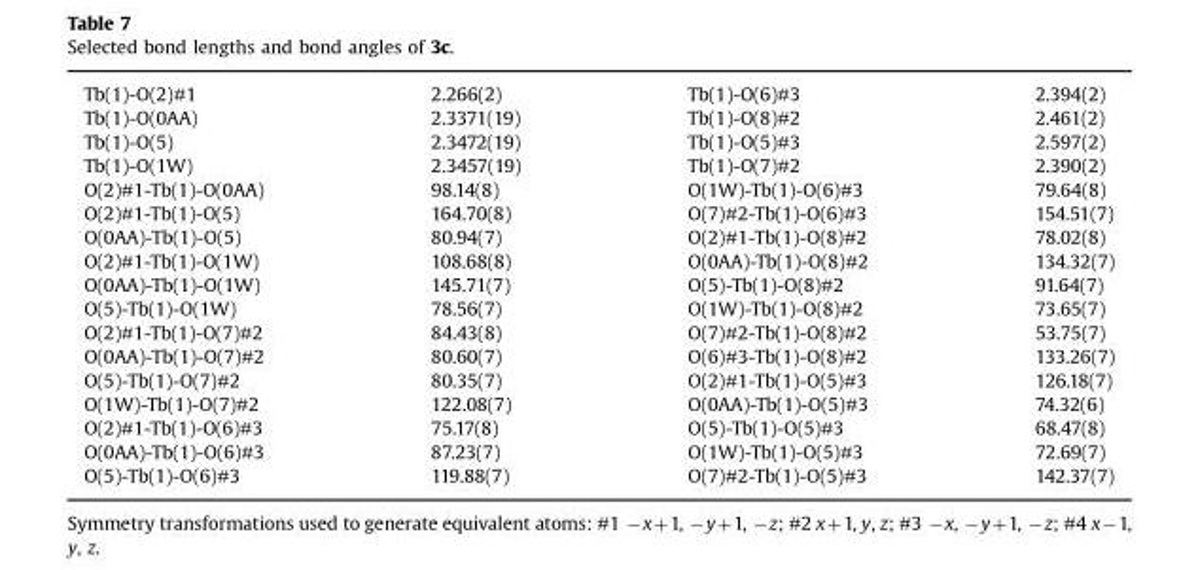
<table><tbody><tr><td>Tb(1)-O(2)#1</td><td>2.266(2)</td><td>Tb(1)-O(6)#3</td><td>2.394(2)</td></tr><tr><td>Tb(1)-O(0AA)</td><td>2.3371(19)</td><td>Tb(1)-O(8)#2</td><td>2.461(2)</td></tr><tr><td>Tb(1)-O(5)</td><td>2.3472(19)</td><td>Tb(1)-O(5)#3</td><td>2.597(2)</td></tr><tr><td>Tb(1)-O(1W)</td><td>2.3457(19)</td><td>Tb(1)-O(7)#2</td><td>2.390(2)</td></tr><tr><td>O(2)#1-Tb(1)-O(0AA)</td><td>98.14(8)</td><td>O(1W)-Tb(1)-O(6)#3</td><td>79.64(8)</td></tr><tr><td>O(2)#1-Tb(1)-O(5)</td><td>164.70(8)</td><td>O(7)#2-Tb(1)-O(6)#3</td><td>154.51(7)</td></tr><tr><td>O(0AA)-Tb(1)-O(5)</td><td>80.94(7)</td><td>O(2)#1-Tb(1)-O(8)#2</td><td>78.02(8)</td></tr><tr><td>O(2)#1-Tb(1)-O(1W)</td><td>108.68(8)</td><td>O(0AA)-Tb(1)-O(8)#2</td><td>134.32(7)</td></tr><tr><td>O(0AA)-Tb(1)-O(1W)</td><td>145.71(7)</td><td>O(5)-Tb(1)-O(8)#2</td><td>91.64(7)</td></tr><tr><td>O(5)-Tb(1)-O(1W)</td><td>78.56(7)</td><td>O(1W)-Tb(1)-O(8)#2</td><td>73.65(7)</td></tr><tr><td>O(2)#1-Tb(1)-O(7)#2</td><td>84.43(8)</td><td>O(7)#2-Tb(1)-O(8)#2</td><td>53.75(7)</td></tr><tr><td>O(0AA)-Tb(1)-O(7)#2</td><td>80.60(7)</td><td>O(6)#3-Tb(1)-O(8)#2</td><td>133.26(7)</td></tr><tr><td>O(5)-Tb(1)-O(7)#2</td><td>80.35(7)</td><td>O(2)#1-Tb(1)-O(5)#3</td><td>126.18(7)</td></tr><tr><td>O(1W)-Tb(1)-O(7)#2</td><td>122.08(7)</td><td>O(0AA)-Tb(1)-O(5)#3</td><td>74.32(6)</td></tr><tr><td>O(2)#1-Tb(1)-O(6)#3</td><td>75.17(8)</td><td>O(5)-Tb(1)-O(5)#3</td><td>68.47(8)</td></tr><tr><td>O(0AA)-Tb(1)-O(6)#3</td><td>87.23(7)</td><td>O(1W)-Tb(1)-O(5)#3</td><td>72.69(7)</td></tr><tr><td>O(5)-Tb(1)-O(6)#3</td><td>119.88(7)</td><td>O(7)#2-Tb(1)-O(5)#3</td><td>142.37(7)</td></tr></tbody></table>